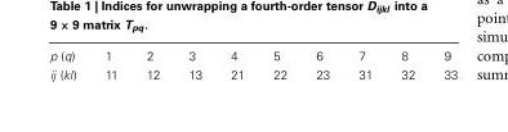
<table><tbody><tr><td>p (q)</td><td>1</td><td>2</td><td>3</td><td>4</td><td>5</td><td>6</td><td>7</td><td>8</td><td>9</td></tr><tr><td>ij (kl)</td><td>11</td><td>12</td><td>13</td><td>21</td><td>22</td><td>23</td><td>31</td><td>32</td><td>33</td></tr></tbody></table>